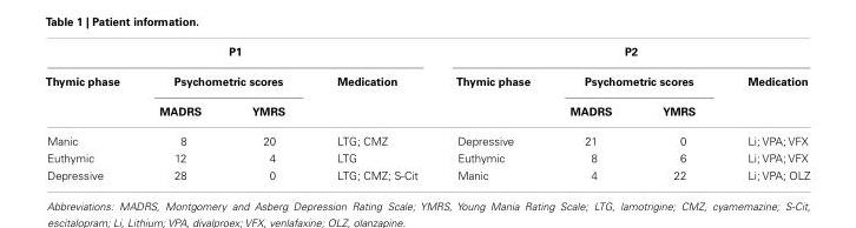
<table><thead><tr><td colspan="4">P1</td><td colspan="4">P2</td></tr><tr><td rowspan="2">Thymic phase</td><td colspan="2">Psychometric scores</td><td rowspan="2">Medication</td><td rowspan="2">Thymic phase</td><td colspan="2">Psychometric scores</td><td rowspan="2">Medication</td></tr><tr><td>MADRS</td><td>YMRS</td><td>MADRS</td><td>YMRS</td></tr></thead><tbody><tr><td>Manic</td><td>8</td><td>20</td><td>LTG; CMZ</td><td>Depressive</td><td>21</td><td>0</td><td>Li; VPA; VFX</td></tr><tr><td>Euthymic</td><td>12</td><td>4</td><td>LTG</td><td>Euthymic</td><td>8</td><td>6</td><td>Li; VPA; VFX</td></tr><tr><td>Depressive</td><td>28</td><td>0</td><td>LTG; CMZ; S-Cit</td><td>Manic</td><td>4</td><td>22</td><td>Li; VPA; OLZ</td></tr></tbody></table>